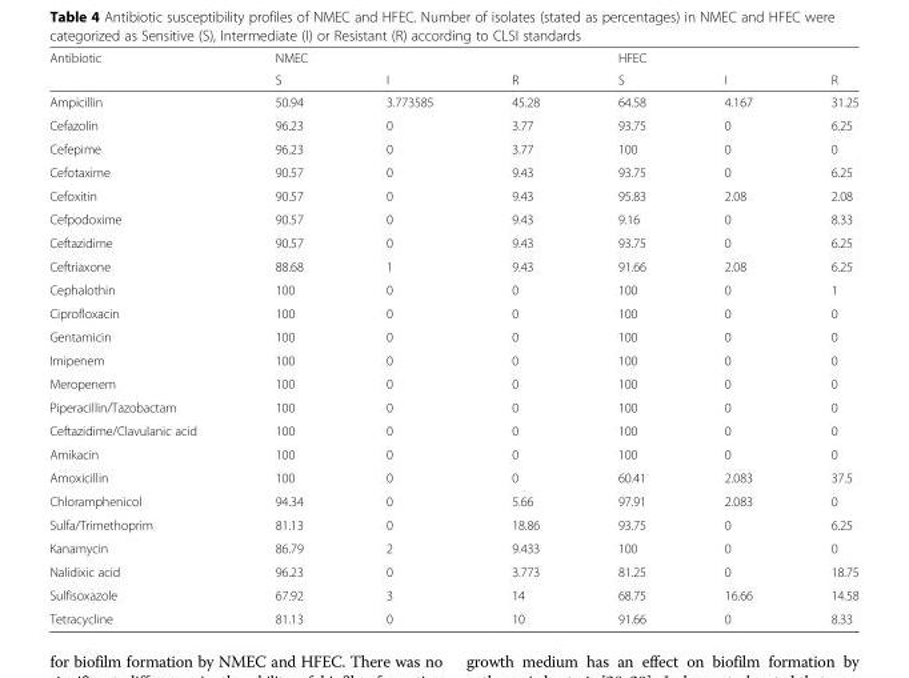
<table><thead><tr><td rowspan="2">Antibiotic</td><td rowspan="2">NMEC S</td><td rowspan="2">I</td><td rowspan="2">R</td><td rowspan="2">HFEC S</td><td rowspan="2">I</td><td rowspan="2">R</td></tr><tr></tr></thead><tbody><tr><td>Ampicillin</td><td>50.94</td><td>3.773585</td><td>45.28</td><td>64.58</td><td>4.167</td><td>31.25</td></tr><tr><td>Cefazolin</td><td>96.23</td><td>0</td><td>3.77</td><td>93.75</td><td>0</td><td>6.25</td></tr><tr><td>Cefepime</td><td>96.23</td><td>0</td><td>3.77</td><td>100</td><td>0</td><td>0</td></tr><tr><td>Cefotaxime</td><td>90.57</td><td>0</td><td>9.43</td><td>93.75</td><td>0</td><td>6.25</td></tr><tr><td>Cefoxitin</td><td>90.57</td><td>0</td><td>9.43</td><td>95.83</td><td>2.08</td><td>2.08</td></tr><tr><td>Cefpodoxime</td><td>90.57</td><td>0</td><td>9.43</td><td>9.16</td><td>0</td><td>8.33</td></tr><tr><td>Ceftazidime</td><td>90.57</td><td>0</td><td>9.43</td><td>93.75</td><td>0</td><td>6.25</td></tr><tr><td>Ceftriaxone</td><td>88.68</td><td>1</td><td>9.43</td><td>91.66</td><td>2.08</td><td>6.25</td></tr><tr><td>Cephalothin</td><td>100</td><td>0</td><td>0</td><td>100</td><td>0</td><td>1</td></tr><tr><td>Ciprofloxacin</td><td>100</td><td>0</td><td>0</td><td>100</td><td>0</td><td>0</td></tr><tr><td>Gentamicin</td><td>100</td><td>0</td><td>0</td><td>100</td><td>0</td><td>0</td></tr><tr><td>Imipenem</td><td>100</td><td>0</td><td>0</td><td>100</td><td>0</td><td>0</td></tr><tr><td>Meropenem</td><td>100</td><td>0</td><td>0</td><td>100</td><td>0</td><td>0</td></tr><tr><td>Piperacillin/Tazobactam</td><td>100</td><td>0</td><td>0</td><td>100</td><td>0</td><td>0</td></tr><tr><td>Ceftazidime/Clavulanic acid</td><td>100</td><td>0</td><td>0</td><td>100</td><td>0</td><td>0</td></tr><tr><td>Amikacin</td><td>100</td><td>0</td><td>0</td><td>100</td><td>0</td><td>0</td></tr><tr><td>Amoxicillin</td><td>100</td><td>0</td><td>0</td><td>60.41</td><td>2.083</td><td>37.5</td></tr><tr><td>Chloramphenicol</td><td>94.34</td><td>0</td><td>5.66</td><td>97.91</td><td>2.083</td><td>0</td></tr><tr><td>Sulfa/Trimethoprim</td><td>81.13</td><td>0</td><td>18.86</td><td>93.75</td><td>0</td><td>6.25</td></tr><tr><td>Kanamycin</td><td>86.79</td><td>2</td><td>9.433</td><td>100</td><td>0</td><td>0</td></tr><tr><td>Nalidixic acid</td><td>96.23</td><td>0</td><td>3.773</td><td>81.25</td><td>0</td><td>18.75</td></tr><tr><td>Sulfisoxazole</td><td>67.92</td><td>3</td><td>14</td><td>68.75</td><td>16.66</td><td>14.58</td></tr><tr><td>Tetracycline</td><td>81.13</td><td>0</td><td>10</td><td>91.66</td><td>0</td><td>8.33</td></tr></tbody></table>